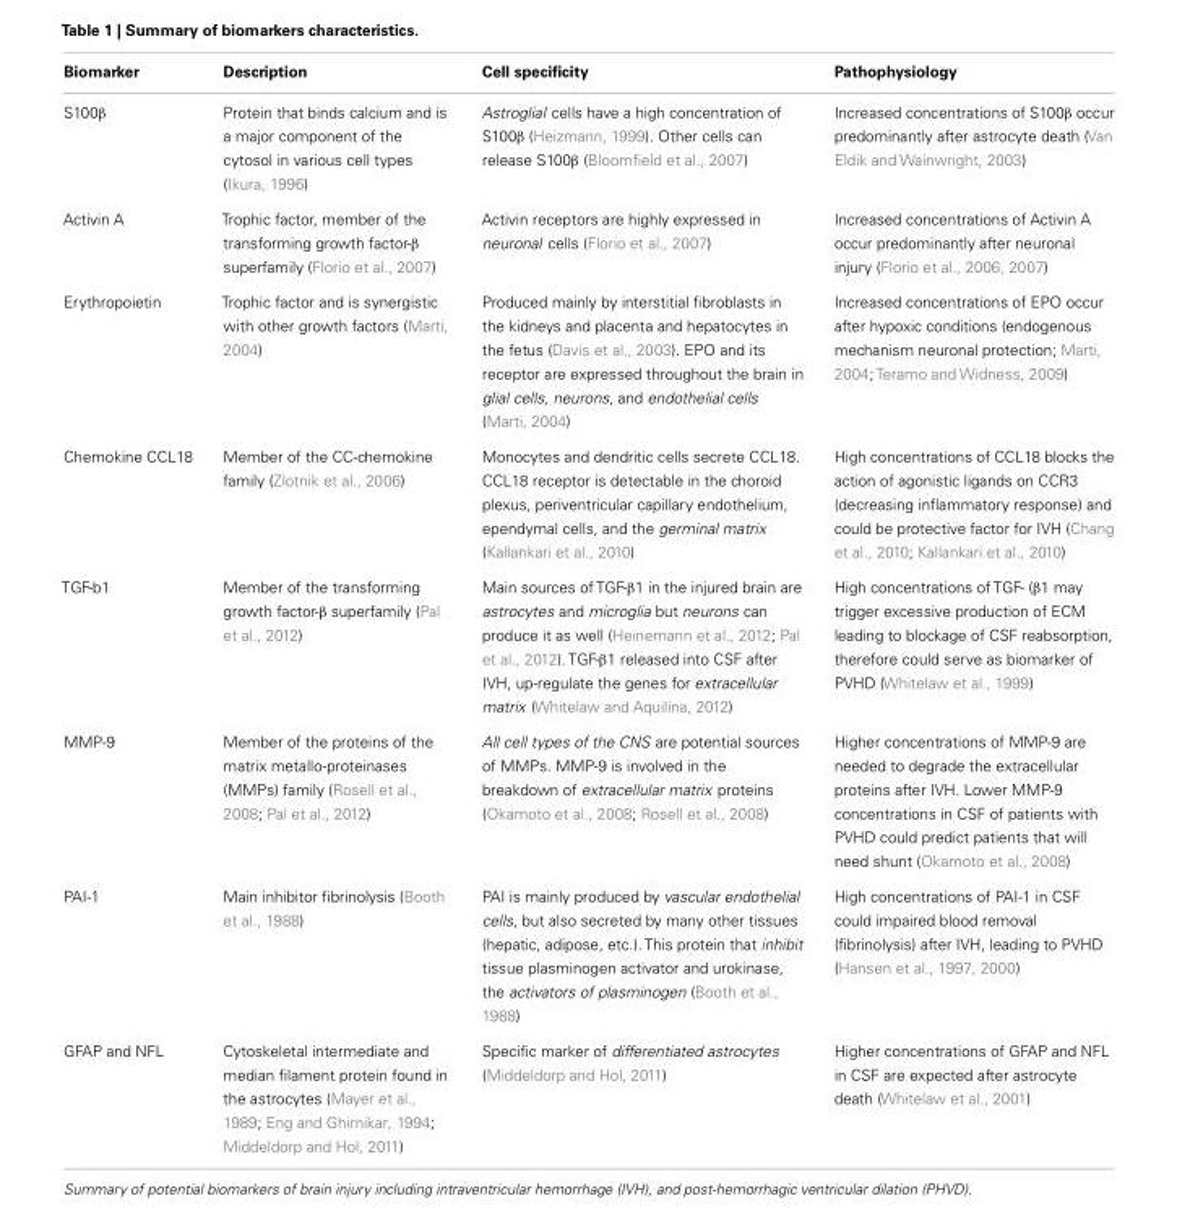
<table><thead><tr><td>Biomarker</td><td>Description</td><td>Cell specificity</td><td>Pathophysiology</td></tr></thead><tbody><tr><td>S100β</td><td>Protein that binds calcium and is a major component of the cytosol in various cell types (Ikura, 1996)</td><td>Astroglial cells have a high concentration of S100β (Heizmann, 1999). Other cells can release S100β (Bloomfield et al., 2007)</td><td>Increased concentrations of S100β occur predominantly after astrocyte death (Van Eldik and Wainwright, 2003)</td></tr><tr><td>Activin A</td><td>Trophic factor, member of the transforming growth factor-β superfamily (Florio et al., 2007)</td><td>Activin receptors are highly expressed in neuronal cells (Florio et al., 2007)</td><td>Increased concentrations of Activin A occur predominantly after neuronal injury (Florio et al., 2006, 2007)</td></tr><tr><td>Erythropoietin</td><td>Trophic factor and is synergistic with other growth factors (Marti, 2004)</td><td>Produced mainly by interstitial fibroblasts in the kidneys and placenta and hepatocytes in the fetus (Davis et al., 2003). EPO and its receptor are expressed throughout the brain in glial cells, neurons, and endothelial cells (Marti, 2004)</td><td>Increased concentrations of EPO occur after hypoxic conditions (endogenous mechanism neuronal protection; Marti, 2004; Teramo and Widness, 2009)</td></tr><tr><td>Chemokine CCL18</td><td>Member of the CC-chemokine family (Zlotnik et al., 2006)</td><td>Monocytes and dendritic cells secrete CCL18. CCL18 receptor is detectable in the choroid plexus, periventricular capillary endothelium, ependymal cells, and the germinal matrix (Kallankari et al., 2010)</td><td>High concentrations of CCL18 blocks the action of agonistic ligands on CCR3 (decreasing inflammatory response) and could be protective factor for IVH (Chang et al., 2010; Kallankari et al., 2010)</td></tr><tr><td>TGF-b1</td><td>Member of the transforming growth factor-β superfamily (Pal et al., 2012)</td><td>Main sources of TGF-β1 in the injured brain are astrocytes and microglia but neurons can produce it as well (Heinemann et al., 2012; Pal et al., 2012). TGF-β1 released into CSF after IVH, up-regulate the genes for extracellular matrix (Whitelaw and Aquilina, 2012)</td><td>High concentrations of TGF- (β1 may trigger excessive production of ECM leading to blockage of CSF reabsorption, therefore could serve as biomarker of PVHD (Whitelaw et al., 1999)</td></tr><tr><td>MMP-9</td><td>Member of the proteins of the matrix metallo-proteinases (MMPs) family (Rosell et al., 2008; Pal et al., 2012)</td><td>All cell types of the CNS are potential sources of MMPs. MMP-9 is involved in the breakdown of extracellular matrix proteins (Okamoto et al., 2008; Rosell et al., 2008)</td><td>Higher concentrations of MMP-9 are needed to degrade the extracellular proteins after IVH. Lower MMP-9 concentrations in CSF of patients with PVHD could predict patients that will need shunt (Okamoto et al., 2008)</td></tr><tr><td>PAI-1</td><td>Main inhibitor fibrinolysis (Booth et al., 1988)</td><td>PAI is mainly produced by vascular endothelial cells, but also secreted by many other tissues (hepatic, adipose, etc.). This protein that inhibit tissue plasminogen activator and urokinase, the activators of plasminogen (Booth et al., 1988)</td><td>High concentrations of PAI-1 in CSF could impaired blood removal (fibrinolysis) after IVH, leading to PVHD (Hansen et al., 1997, 2000)</td></tr><tr><td>GFAP and NFL</td><td>Cytoskeletal intermediate and median filament protein found in the astrocytes (Mayer et al., 1989; Eng and Ghirnikar, 1994; Middeldorp and Hol, 2011)</td><td>Specific marker of differentiated astrocytes (Middeldorp and Hol, 2011)</td><td>Higher concentrations of GFAP and NFL in CSF are expected after astrocyte death (Whitelaw et al., 2001)</td></tr></tbody></table>